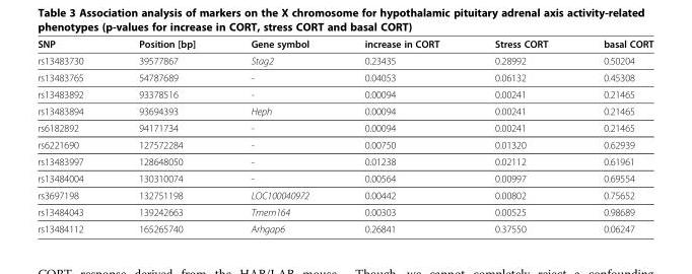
<table><thead><tr><td>SNP</td><td>Position [bp]</td><td>Gene symbol</td><td>increase in CORT</td><td>Stress CORT</td><td>basal CORT</td></tr></thead><tbody><tr><td>rs13483730</td><td>39577867</td><td>Stag2</td><td>0.23435</td><td>0.28992</td><td>0.50204</td></tr><tr><td>rs13483765</td><td>54787689</td><td>-</td><td>0.04053</td><td>0.06132</td><td>0.45308</td></tr><tr><td>rs13483892</td><td>93378516</td><td>-</td><td>0.00094</td><td>0.00241</td><td>0.21465</td></tr><tr><td>rs13483894</td><td>93694393</td><td>Heph</td><td>0.00094</td><td>0.00241</td><td>0.21465</td></tr><tr><td>rs6182892</td><td>94171734</td><td>-</td><td>0.00094</td><td>0.00241</td><td>0.21465</td></tr><tr><td>rs6221690</td><td>127572284</td><td>-</td><td>0.00750</td><td>0.01320</td><td>0.62939</td></tr><tr><td>rs13483997</td><td>128648050</td><td>-</td><td>0.01238</td><td>0.02112</td><td>0.61961</td></tr><tr><td>rs13484004</td><td>130310074</td><td>-</td><td>0.00564</td><td>0.00997</td><td>0.69554</td></tr><tr><td>rs3697198</td><td>132751198</td><td>LOC100040972</td><td>0.00442</td><td>0.00802</td><td>0.75652</td></tr><tr><td>rs13484043</td><td>139242663</td><td>Tmem164</td><td>0.00303</td><td>0.00525</td><td>0.98689</td></tr><tr><td>rs13484112</td><td>165265740</td><td>Arhgap6</td><td>0.26841</td><td>0.37550</td><td>0.06247</td></tr></tbody></table>